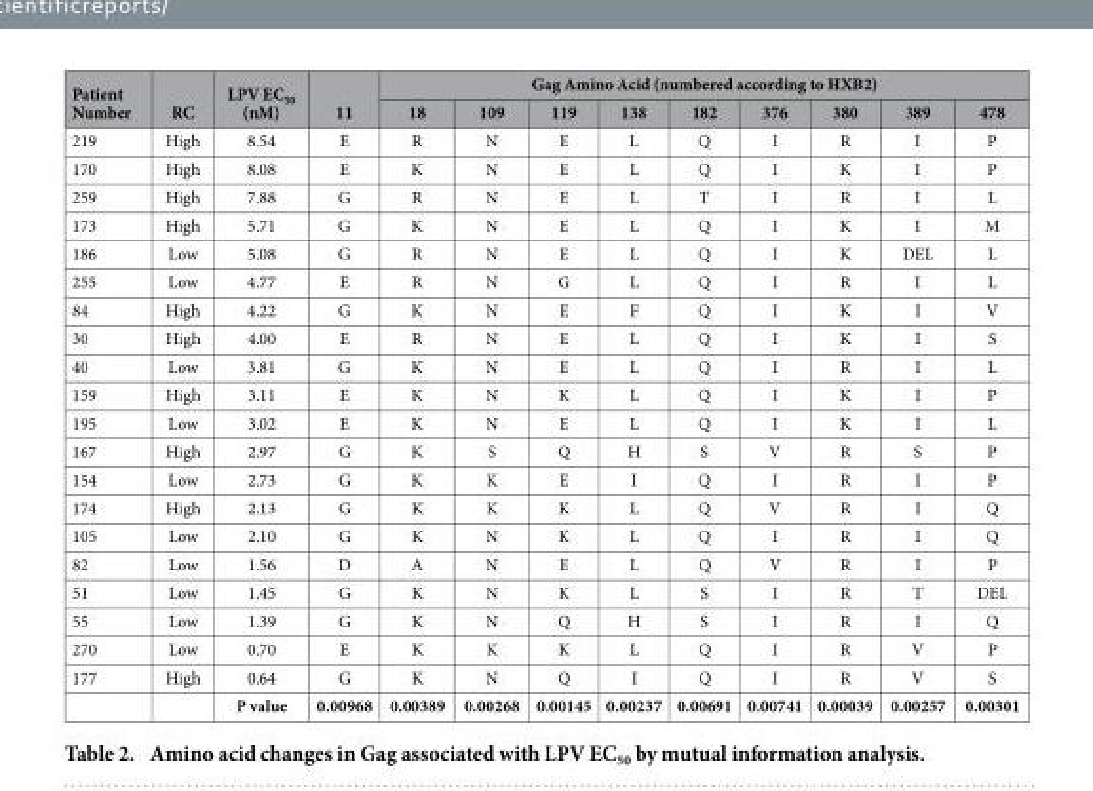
<table><thead><tr><td rowspan="2">Patient Number</td><td rowspan="2">RC</td><td rowspan="2">LPV EC<sub>50</sub> (nM)</td><td rowspan="2">11</td><td colspan="9">Gag Amino Acid (numbered according to HXB2)</td></tr><tr><td>18</td><td>109</td><td>119</td><td>138</td><td>182</td><td>376</td><td>380</td><td>389</td><td>478</td></tr></thead><tbody><tr><td>219</td><td>High</td><td>8.54</td><td>E</td><td>R</td><td>N</td><td>E</td><td>L</td><td>Q</td><td>I</td><td>R</td><td>I</td><td>P</td></tr><tr><td>170</td><td>High</td><td>8.08</td><td>E</td><td>K</td><td>N</td><td>E</td><td>L</td><td>Q</td><td>I</td><td>K</td><td>I</td><td>P</td></tr><tr><td>259</td><td>High</td><td>7.88</td><td>G</td><td>R</td><td>N</td><td>E</td><td>L</td><td>T</td><td>I</td><td>R</td><td>I</td><td>L</td></tr><tr><td>173</td><td>High</td><td>5.71</td><td>G</td><td>K</td><td>N</td><td>E</td><td>L</td><td>Q</td><td>I</td><td>K</td><td>I</td><td>M</td></tr><tr><td>186</td><td>Low</td><td>5.08</td><td>G</td><td>R</td><td>N</td><td>E</td><td>L</td><td>Q</td><td>I</td><td>K</td><td>DEL</td><td>L</td></tr><tr><td>255</td><td>Low</td><td>4.77</td><td>E</td><td>R</td><td>N</td><td>G</td><td>L</td><td>Q</td><td>I</td><td>R</td><td>I</td><td>L</td></tr><tr><td>84</td><td>High</td><td>4.22</td><td>G</td><td>K</td><td>N</td><td>E</td><td>F</td><td>Q</td><td>I</td><td>K</td><td>I</td><td>V</td></tr><tr><td>30</td><td>High</td><td>4.00</td><td>E</td><td>R</td><td>N</td><td>E</td><td>L</td><td>Q</td><td>I</td><td>K</td><td>I</td><td>S</td></tr><tr><td>40</td><td>Low</td><td>3.81</td><td>G</td><td>K</td><td>N</td><td>E</td><td>L</td><td>Q</td><td>I</td><td>R</td><td>I</td><td>L</td></tr><tr><td>159</td><td>High</td><td>3.11</td><td>E</td><td>K</td><td>N</td><td>K</td><td>L</td><td>Q</td><td>I</td><td>K</td><td>I</td><td>P</td></tr><tr><td>195</td><td>Low</td><td>3.02</td><td>E</td><td>K</td><td>N</td><td>E</td><td>L</td><td>Q</td><td>I</td><td>K</td><td>I</td><td>L</td></tr><tr><td>167</td><td>High</td><td>2.97</td><td>G</td><td>K</td><td>S</td><td>Q</td><td>H</td><td>S</td><td>V</td><td>R</td><td>S</td><td>P</td></tr><tr><td>154</td><td>Low</td><td>2.73</td><td>G</td><td>K</td><td>K</td><td>E</td><td>I</td><td>Q</td><td>I</td><td>R</td><td>I</td><td>P</td></tr><tr><td>174</td><td>High</td><td>2.13</td><td>G</td><td>K</td><td>K</td><td>K</td><td>L</td><td>Q</td><td>V</td><td>R</td><td>I</td><td>Q</td></tr><tr><td>105</td><td>Low</td><td>2.10</td><td>G</td><td>K</td><td>N</td><td>K</td><td>L</td><td>Q</td><td>I</td><td>R</td><td>I</td><td>Q</td></tr><tr><td>82</td><td>Low</td><td>1.56</td><td>D</td><td>A</td><td>N</td><td>E</td><td>L</td><td>Q</td><td>V</td><td>R</td><td>I</td><td>P</td></tr><tr><td>51</td><td>Low</td><td>1.45</td><td>G</td><td>K</td><td>N</td><td>K</td><td>L</td><td>S</td><td>I</td><td>R</td><td>T</td><td>DEL</td></tr><tr><td>55</td><td>Low</td><td>1.39</td><td>G</td><td>K</td><td>N</td><td>Q</td><td>H</td><td>S</td><td>I</td><td>R</td><td>I</td><td>Q</td></tr><tr><td>270</td><td>Low</td><td>0.70</td><td>E</td><td>K</td><td>K</td><td>K</td><td>L</td><td>Q</td><td>I</td><td>R</td><td>V</td><td>P</td></tr><tr><td rowspan="2">177</td><td>High</td><td>0.64</td><td>G</td><td>K</td><td>N</td><td>Q</td><td>I</td><td>Q</td><td>I</td><td>R</td><td>V</td><td>S</td></tr><tr><td></td><td>P value</td><td>0.00968</td><td>0.00389</td><td>0.00268</td><td>0.00145</td><td>0.00237</td><td>0.00691</td><td>0.00741</td><td>0.00039</td><td>0.00257</td><td>0.00301</td></tr></tbody></table>